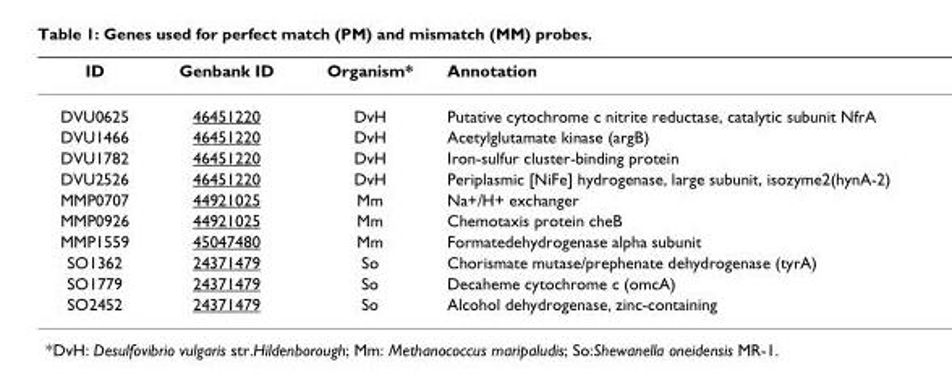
<table><thead><tr><td>ID</td><td>Genbank ID</td><td>Organism*</td><td>Annotation</td></tr></thead><tbody><tr><td>DVU0625</td><td>46451220</td><td>DvH</td><td>Putative cytochrome c nitrite reductase, catalytic subunit NfrA</td></tr><tr><td>DVU1466</td><td>46451220</td><td>DvH</td><td>Acetylglutamate kinase (argB)</td></tr><tr><td>DVU1782</td><td>46451220</td><td>DvH</td><td>Iron-sulfur cluster-binding protein</td></tr><tr><td>DVU2526</td><td>46451220</td><td>DvH</td><td>Periplasmic [NiFe] hydrogenase, large subunit, isozyme2(hynA-2)</td></tr><tr><td>MMP0707</td><td>44921025</td><td>Mm</td><td>Na+/H+ exchanger</td></tr><tr><td>MMP0926</td><td>44921025</td><td>Mm</td><td>Chemotaxis protein cheB</td></tr><tr><td>MMP1559</td><td>45047480</td><td>Mm</td><td>Formatedehydrogenase alpha subunit</td></tr><tr><td>SO1362</td><td>24371479</td><td>So</td><td>Chorismate mutase/prephenate dehydrogenase (tyrA)</td></tr><tr><td>SO1779</td><td>24371479</td><td>So</td><td>Decaheme cytochrome c (omcA)</td></tr><tr><td>SO2452</td><td>24371479</td><td>So</td><td>Alcohol dehydrogenase, zinc-containing</td></tr></tbody></table>